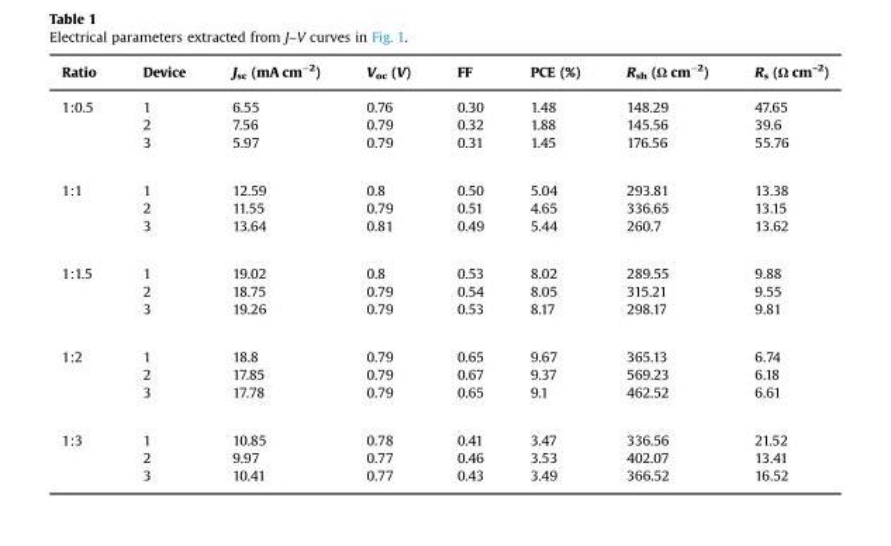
<table><thead><tr><td>Ratio</td><td>Device</td><td>J<sub>sc</sub> (mA cm<sup>−2</sup>)</td><td>V<sub>oc</sub> (V)</td><td>FF</td><td>PCE (%)</td><td>R<sub>sh</sub> (Ω cm<sup>−2</sup>)</td><td>R<sub>s</sub> (Ω cm<sup>–2</sup>)</td></tr></thead><tbody><tr><td rowspan="3">1:0.5</td><td>1</td><td>6.55</td><td>0.76</td><td>0.30</td><td>1.48</td><td>148.29</td><td>47.65</td></tr><tr><td>2</td><td>7.56</td><td>0.79</td><td>0.32</td><td>1.88</td><td>145.56</td><td>39.6</td></tr><tr><td>3</td><td>5.97</td><td>0.79</td><td>0.31</td><td>1.45</td><td>176.56</td><td>55.76</td></tr><tr><td rowspan="3">1:1</td><td>1</td><td>12.59</td><td>0.8</td><td>0.50</td><td>5.04</td><td>293.81</td><td>13.38</td></tr><tr><td>2</td><td>11.55</td><td>0.79</td><td>0.51</td><td>4.65</td><td>336.65</td><td>13.15</td></tr><tr><td>3</td><td>13.64</td><td>0.81</td><td>0.49</td><td>5.44</td><td>260.7</td><td>13.62</td></tr><tr><td rowspan="3">1:1.5</td><td>1</td><td>19.02</td><td>0.8</td><td>0.53</td><td>8.02</td><td>289.55</td><td>9.88</td></tr><tr><td>2</td><td>18.75</td><td>0.79</td><td>0.54</td><td>8.05</td><td>315.21</td><td>9.55</td></tr><tr><td>3</td><td>19.26</td><td>0.79</td><td>0.53</td><td>8.17</td><td>298.17</td><td>9.81</td></tr><tr><td rowspan="3">1:2</td><td>1</td><td>18.8</td><td>0.79</td><td>0.65</td><td>9.67</td><td>365.13</td><td>6.74</td></tr><tr><td>2</td><td>17.85</td><td>0.79</td><td>0.67</td><td>9.37</td><td>569.23</td><td>6.18</td></tr><tr><td>3</td><td>17.78</td><td>0.79</td><td>0.65</td><td>9.1</td><td>462.52</td><td>6.61</td></tr><tr><td rowspan="3">1:3</td><td>1</td><td>10.85</td><td>0.78</td><td>0.41</td><td>3.47</td><td>336.56</td><td>21.52</td></tr><tr><td>2</td><td>9.97</td><td>0.77</td><td>0.46</td><td>3.53</td><td>402.07</td><td>13.41</td></tr><tr><td>3</td><td>10.41</td><td>0.77</td><td>0.43</td><td>3.49</td><td>366.52</td><td>16.52</td></tr></tbody></table>